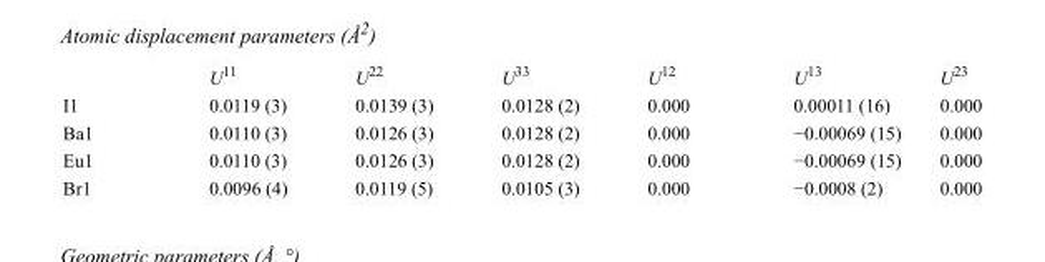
<table><thead><tr><td></td><td>U<sup>11</sup></td><td>U<sup>22</sup></td><td>U<sup>33</sup></td><td>U<sup>12</sup></td><td>U<sup>13</sup></td><td>U<sup>23</sup></td></tr></thead><tbody><tr><td>I1</td><td>0.0119 (3)</td><td>0.0139 (3)</td><td>0.0128 (2)</td><td>0.000</td><td>0.00011 (16)</td><td>0.000</td></tr><tr><td>Ba1</td><td>0.0110 (3)</td><td>0.0126 (3)</td><td>0.0128 (2)</td><td>0.000</td><td>−0.00069 (15)</td><td>0.000</td></tr><tr><td>Eu1</td><td>0.0110 (3)</td><td>0.0126 (3)</td><td>0.0128 (2)</td><td>0.000</td><td>−0.00069 (15)</td><td>0.000</td></tr><tr><td>Br1</td><td>0.0096 (4)</td><td>0.0119 (5)</td><td>0.0105 (3)</td><td>0.000</td><td>−0.0008 (2)</td><td>0.000</td></tr></tbody></table>